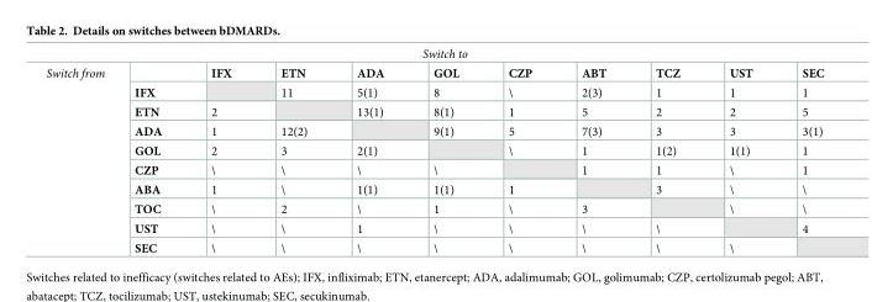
<table><tbody><tr><td colspan="11">Switch to</td></tr><tr><td rowspan="10">Switch from</td><td></td><td>IFX</td><td>ETN</td><td>ADA</td><td>GOL</td><td>CZP</td><td>ABT</td><td>TCZ</td><td>UST</td><td>SEC</td></tr><tr><td>IFX</td><td></td><td>11</td><td>5(1)</td><td>8</td><td>\</td><td>2(3)</td><td>1</td><td>1</td><td>1</td></tr><tr><td>ETN</td><td>2</td><td></td><td>13(1)</td><td>8(1)</td><td>1</td><td>5</td><td>2</td><td>2</td><td>5</td></tr><tr><td>ADA</td><td>1</td><td>12(2)</td><td></td><td>9(1)</td><td>5</td><td>7(3)</td><td>3</td><td>3</td><td>3(1)</td></tr><tr><td>GOL</td><td>2</td><td>3</td><td>2(1)</td><td></td><td>\</td><td>1</td><td>1(2)</td><td>1(1)</td><td>1</td></tr><tr><td>CZP</td><td>\</td><td>\</td><td>\</td><td>\</td><td></td><td>1</td><td>1</td><td>\</td><td>1</td></tr><tr><td>ABA</td><td>1</td><td>\</td><td>1(1)</td><td>1(1)</td><td>1</td><td></td><td>3</td><td>\</td><td>\</td></tr><tr><td>TOC</td><td>\</td><td>2</td><td>\</td><td>1</td><td>\</td><td>3</td><td></td><td>\</td><td>\</td></tr><tr><td>UST</td><td>\</td><td>\</td><td>1</td><td>\</td><td>\</td><td>\</td><td>\</td><td></td><td>4</td></tr><tr><td>SEC</td><td>\</td><td>\</td><td>\</td><td>\</td><td>\</td><td>\</td><td>\</td><td>\</td><td></td></tr></tbody></table>